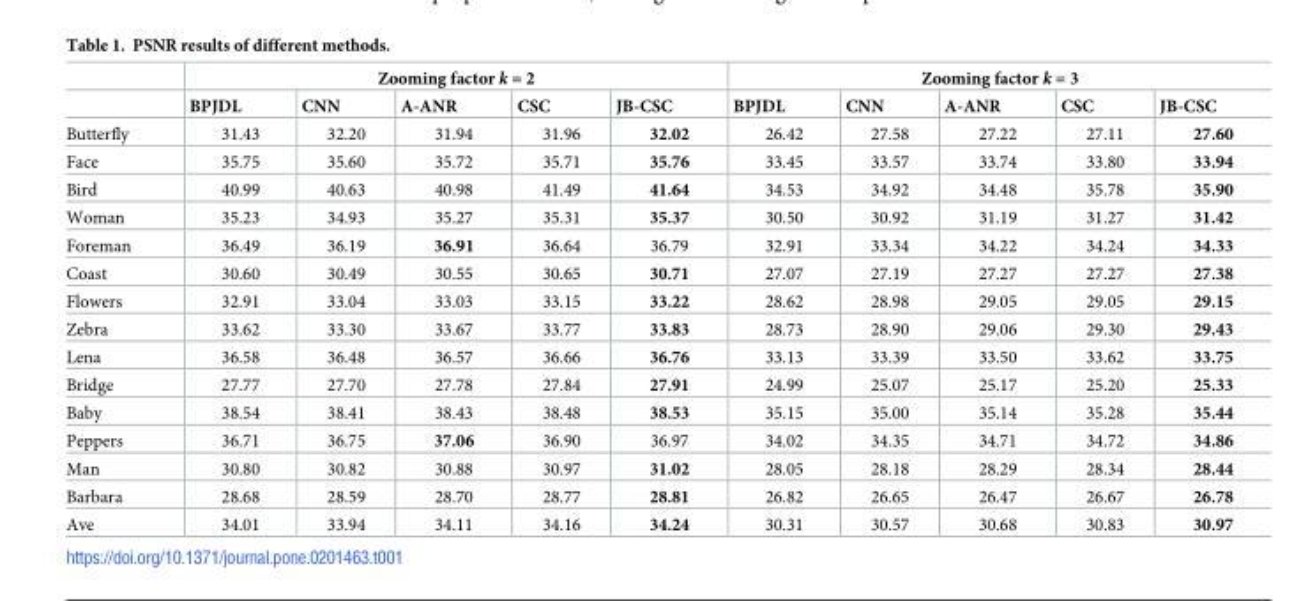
<table><thead><tr><td rowspan="2"></td><td colspan="5">Zooming factor k = 2</td><td colspan="5">Zooming factor k = 3</td></tr><tr><td>BPJDL</td><td>CNN</td><td>A-ANR</td><td>CSC</td><td>JB-CSC</td><td>BPJDL</td><td>CNN</td><td>A-ANR</td><td>CSC</td><td>JB-CSC</td></tr></thead><tbody><tr><td>Butterfly</td><td>31.43</td><td>32.20</td><td>31.94</td><td>31.96</td><td>32.02</td><td>26.42</td><td>27.58</td><td>27.22</td><td>27.11</td><td>27.60</td></tr><tr><td>Face</td><td>35.75</td><td>35.60</td><td>35.72</td><td>35.71</td><td>35.76</td><td>33.45</td><td>33.57</td><td>33.74</td><td>33.80</td><td>33.94</td></tr><tr><td>Bird</td><td>40.99</td><td>40.63</td><td>40.98</td><td>41.49</td><td>41.64</td><td>34.53</td><td>34.92</td><td>34.48</td><td>35.78</td><td>35.90</td></tr><tr><td>Woman</td><td>35.23</td><td>34.93</td><td>35.27</td><td>35.31</td><td>35.37</td><td>30.50</td><td>30.92</td><td>31.19</td><td>31.27</td><td>31.42</td></tr><tr><td>Foreman</td><td>36.49</td><td>36.19</td><td>36.91</td><td>36.64</td><td>36.79</td><td>32.91</td><td>33.34</td><td>34.22</td><td>34.24</td><td>34.33</td></tr><tr><td>Coast</td><td>30.60</td><td>30.49</td><td>30.55</td><td>30.65</td><td>30.71</td><td>27.07</td><td>27.19</td><td>27.27</td><td>27.27</td><td>27.38</td></tr><tr><td>Flowers</td><td>32.91</td><td>33.04</td><td>33.03</td><td>33.15</td><td>33.22</td><td>28.62</td><td>28.98</td><td>29.05</td><td>29.05</td><td>29.15</td></tr><tr><td>Zebra</td><td>33.62</td><td>33.30</td><td>33.67</td><td>33.77</td><td>33.83</td><td>28.73</td><td>28.90</td><td>29.06</td><td>29.30</td><td>29.43</td></tr><tr><td>Lena</td><td>36.58</td><td>36.48</td><td>36.57</td><td>36.66</td><td>36.76</td><td>33.13</td><td>33.39</td><td>33.50</td><td>33.62</td><td>33.75</td></tr><tr><td>Bridge</td><td>27.77</td><td>27.70</td><td>27.78</td><td>27.84</td><td>27.91</td><td>24.99</td><td>25.07</td><td>25.17</td><td>25.20</td><td>25.33</td></tr><tr><td>Baby</td><td>38.54</td><td>38.41</td><td>38.43</td><td>38.48</td><td>38.53</td><td>35.15</td><td>35.00</td><td>35.14</td><td>35.28</td><td>35.44</td></tr><tr><td>Peppers</td><td>36.71</td><td>36.75</td><td>37.06</td><td>36.90</td><td>36.97</td><td>34.02</td><td>34.35</td><td>34.71</td><td>34.72</td><td>34.86</td></tr><tr><td>Man</td><td>30.80</td><td>30.82</td><td>30.88</td><td>30.97</td><td>31.02</td><td>28.05</td><td>28.18</td><td>28.29</td><td>28.34</td><td>28.44</td></tr><tr><td>Barbara</td><td>28.68</td><td>28.59</td><td>28.70</td><td>28.77</td><td>28.81</td><td>26.82</td><td>26.65</td><td>26.47</td><td>26.67</td><td>26.78</td></tr><tr><td>Ave</td><td>34.01</td><td>33.94</td><td>34.11</td><td>34.16</td><td>34.24</td><td>30.31</td><td>30.57</td><td>30.68</td><td>30.83</td><td>30.97</td></tr></tbody></table>